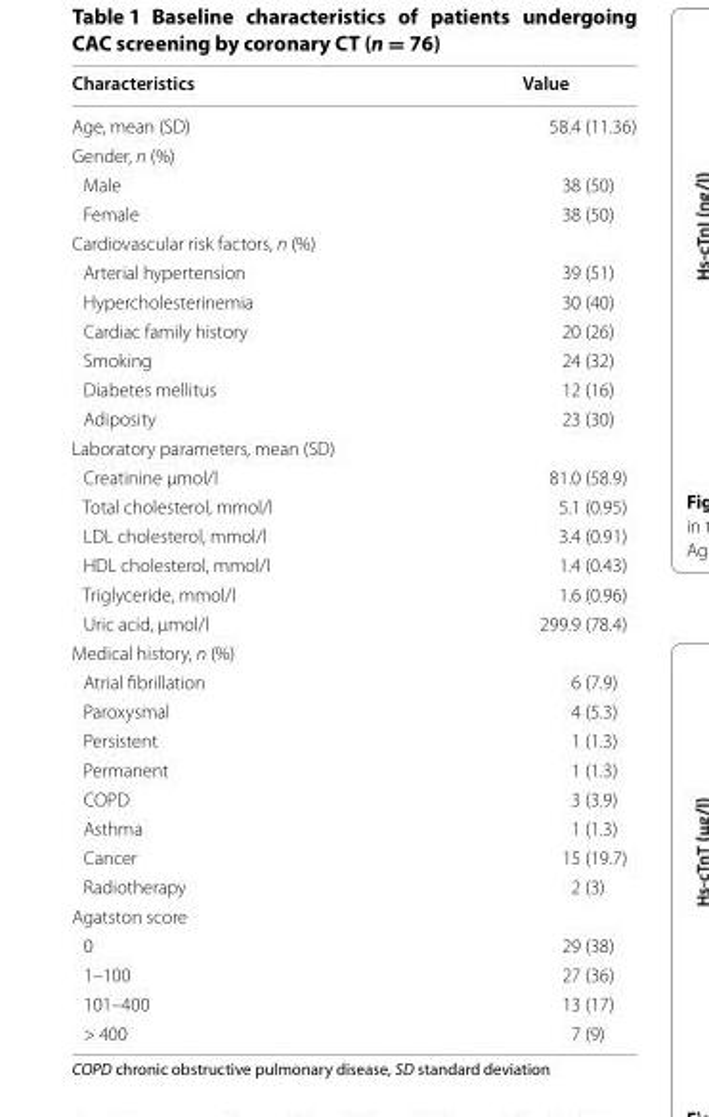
<table><thead><tr><td>Characteristics</td><td>Value</td></tr></thead><tbody><tr><td>Age, mean (SD)</td><td>58.4 (11.36)</td></tr><tr><td colspan="2">Gender, n (%)</td></tr><tr><td>Male</td><td>38 (50)</td></tr><tr><td>Female</td><td>38 (50)</td></tr><tr><td colspan="2">Cardiovascular risk factors, n (%)</td></tr><tr><td>Arterial hypertension</td><td>39 (51)</td></tr><tr><td>Hypercholesterinemia</td><td>30 (40)</td></tr><tr><td>Cardiac family history</td><td>20 (26)</td></tr><tr><td>Smoking</td><td>24 (32)</td></tr><tr><td>Diabetes mellitus</td><td>12 (16)</td></tr><tr><td>Adiposity</td><td>23 (30)</td></tr><tr><td colspan="2">Laboratory parameters, mean (SD)</td></tr><tr><td>Creatinine µmol/l</td><td>81.0 (58.9)</td></tr><tr><td>Total cholesterol, mmol/l</td><td>5.1 (0.95)</td></tr><tr><td>LDL cholesterol, mmol/l</td><td>3.4 (0.91)</td></tr><tr><td>HDL cholesterol, mmol/l</td><td>1.4 (0.43)</td></tr><tr><td>Triglyceride, mmol/l</td><td>1.6 (0.96)</td></tr><tr><td>Uric acid, µmol/l</td><td>299.9 (78.4)</td></tr><tr><td colspan="2">Medical history, n (%)</td></tr><tr><td>Atrial fibrillation</td><td>6 (7.9)</td></tr><tr><td>Paroxysmal</td><td>4 (5.3)</td></tr><tr><td>Persistent</td><td>1 (1.3)</td></tr><tr><td>Permanent</td><td>1 (1.3)</td></tr><tr><td>COPD</td><td>3 (3.9)</td></tr><tr><td>Asthma</td><td>1 (1.3)</td></tr><tr><td>Cancer</td><td>15 (19.7)</td></tr><tr><td>Radiotherapy</td><td>2 (3)</td></tr><tr><td colspan="2">Agatston score</td></tr><tr><td>0</td><td>29 (38)</td></tr><tr><td>1–100</td><td>27 (36)</td></tr><tr><td>101–400</td><td>13 (17)</td></tr><tr><td>&gt; 400</td><td>7 (9)</td></tr></tbody></table>